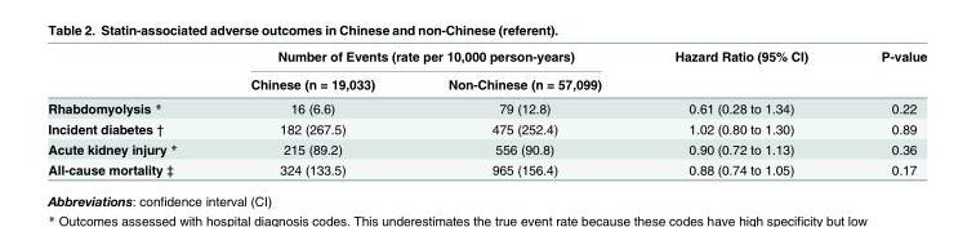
<table><thead><tr><td rowspan="2"></td><td colspan="2">Number of Events (rate per 10,000 person-years)</td><td rowspan="2">Hazard Ratio (95% CI)</td><td rowspan="2">P-value</td></tr><tr><td>Chinese (n = 19,033)</td><td>Non-Chinese (n = 57,099)</td></tr></thead><tbody><tr><td>Rhabdomyolysis *</td><td>16 (6.6)</td><td>79 (12.8)</td><td>0.61 (0.28 to 1.34)</td><td>0.22</td></tr><tr><td>Incident diabetes †</td><td>182 (267.5)</td><td>475 (252.4)</td><td>1.02 (0.80 to 1.30)</td><td>0.89</td></tr><tr><td>Acute kidney injury *</td><td>215 (89.2)</td><td>556 (90.8)</td><td>0.90 (0.72 to 1.13)</td><td>0.36</td></tr><tr><td>All-cause mortality ‡</td><td>324 (133.5)</td><td>965 (156.4)</td><td>0.88 (0.74 to 1.05)</td><td>0.17</td></tr></tbody></table>